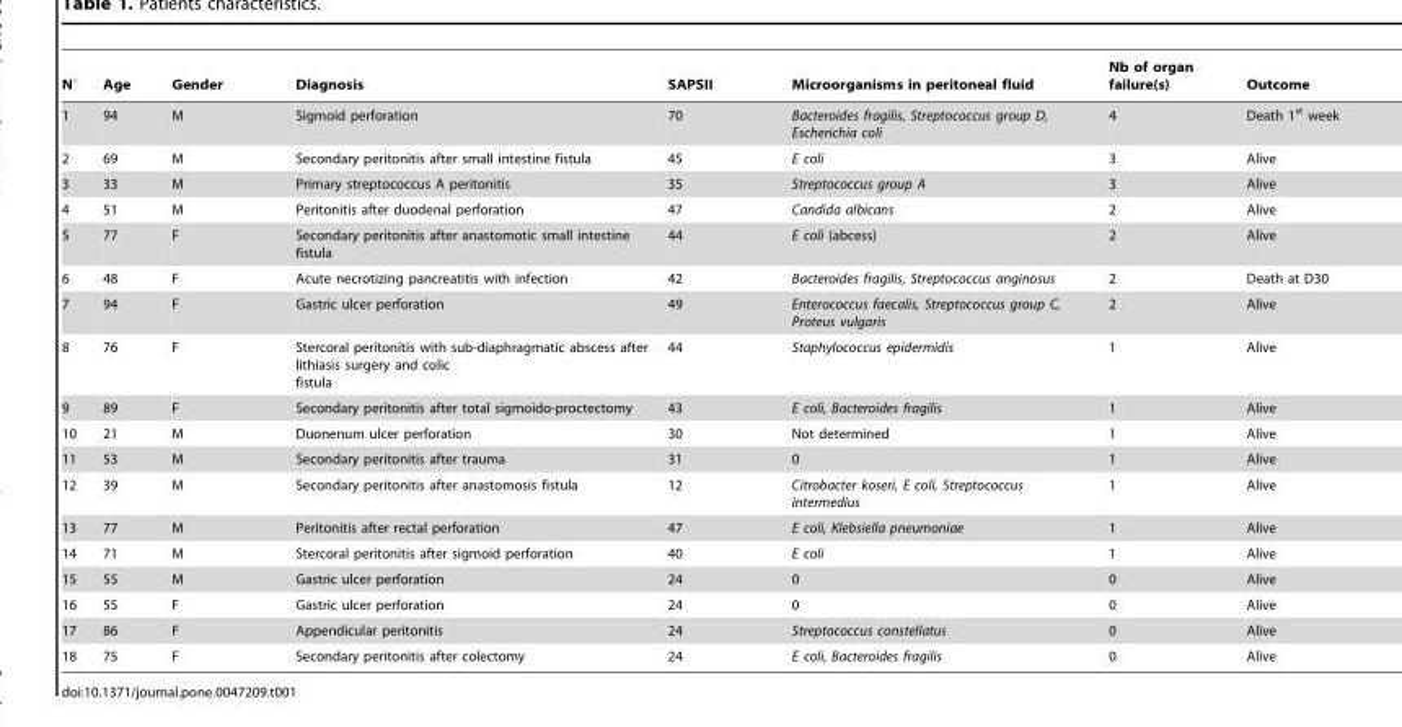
<table><thead><tr><td>N°</td><td>Age</td><td>Gender</td><td>Diagnosis</td><td>SAPSII</td><td>Microorganisms in peritoneal fluid</td><td>Nb of organ failure(s)</td><td>Outcome</td></tr></thead><tbody><tr><td>1</td><td>94</td><td>M</td><td>Sigmoid perforation</td><td>70</td><td>Bacteroides fragilis, Streptococcus group D, Escherichia coli</td><td>4</td><td>Death 1<sup>st</sup> week</td></tr><tr><td>2</td><td>69</td><td>M</td><td>Secondary peritonitis after small intestine fistula</td><td>45</td><td>E coli</td><td>3</td><td>Alive</td></tr><tr><td>3</td><td>33</td><td>M</td><td>Primary streptococcus A peritonitis</td><td>35</td><td>Streptococcus group A</td><td>3</td><td>Alive</td></tr><tr><td>4</td><td>51</td><td>M</td><td>Peritonitis after duodenal perforation</td><td>47</td><td>Candida albicans</td><td>2</td><td>Alive</td></tr><tr><td>5</td><td>77</td><td>F</td><td>Secondary peritonitis after anastomotic small intestine fistula</td><td>44</td><td>E coli (abcess)</td><td>2</td><td>Alive</td></tr><tr><td>6</td><td>48</td><td>F</td><td>Acute necrotizing pancreatitis with infection</td><td>42</td><td>Bacteroides fragilis, Streptococcus anginosus</td><td>2</td><td>Death at D30</td></tr><tr><td>7</td><td>94</td><td>F</td><td>Gastric ulcer perforation</td><td>49</td><td>Enterococcus faecalis, Streptococcus group C, Proteus vulgaris</td><td>2</td><td>Alive</td></tr><tr><td>8</td><td>76</td><td>F</td><td>Stercoral peritonitis with sub-diaphragmatic abscess after lithiasis surgery and colic fistula</td><td>44</td><td>Staphylococcus epidermidis</td><td>1</td><td>Alive</td></tr><tr><td>9</td><td>89</td><td>F</td><td>Secondary peritonitis after total sigmoido-proctectomy</td><td>43</td><td>E coli, Bacteroides fragilis</td><td>1</td><td>Alive</td></tr><tr><td>10</td><td>21</td><td>M</td><td>Duonenum ulcer perforation</td><td>30</td><td>Not determined</td><td>1</td><td>Alive</td></tr><tr><td>11</td><td>53</td><td>M</td><td>Secondary peritonitis after trauma</td><td>31</td><td>0</td><td>1</td><td>Alive</td></tr><tr><td>12</td><td>39</td><td>M</td><td>Secondary peritonitis after anastomosis fistula</td><td>12</td><td>Citrobacter koseri, E coli, Streptococcus intermedius</td><td>1</td><td>Alive</td></tr><tr><td>13</td><td>77</td><td>M</td><td>Peritonitis after rectal perforation</td><td>47</td><td>E coli, Klebsiella pneumoniae</td><td>1</td><td>Alive</td></tr><tr><td>14</td><td>71</td><td>M</td><td>Stercoral peritonitis after sigmoid perforation</td><td>40</td><td>E coli</td><td>1</td><td>Alive</td></tr><tr><td>15</td><td>55</td><td>M</td><td>Gastric ulcer perforation</td><td>24</td><td>0</td><td>0</td><td>Alive</td></tr><tr><td>16</td><td>55</td><td>F</td><td>Gastric ulcer perforation</td><td>24</td><td>0</td><td>0</td><td>Alive</td></tr><tr><td>17</td><td>86</td><td>F</td><td>Appendicular peritonitis</td><td>24</td><td>Streptococcus constellatus</td><td>0</td><td>Alive</td></tr><tr><td>18</td><td>75</td><td>F</td><td>Secondary peritonitis after colectomy</td><td>24</td><td>E coli, Bacteroides fragilis</td><td>0</td><td>Alive</td></tr></tbody></table>